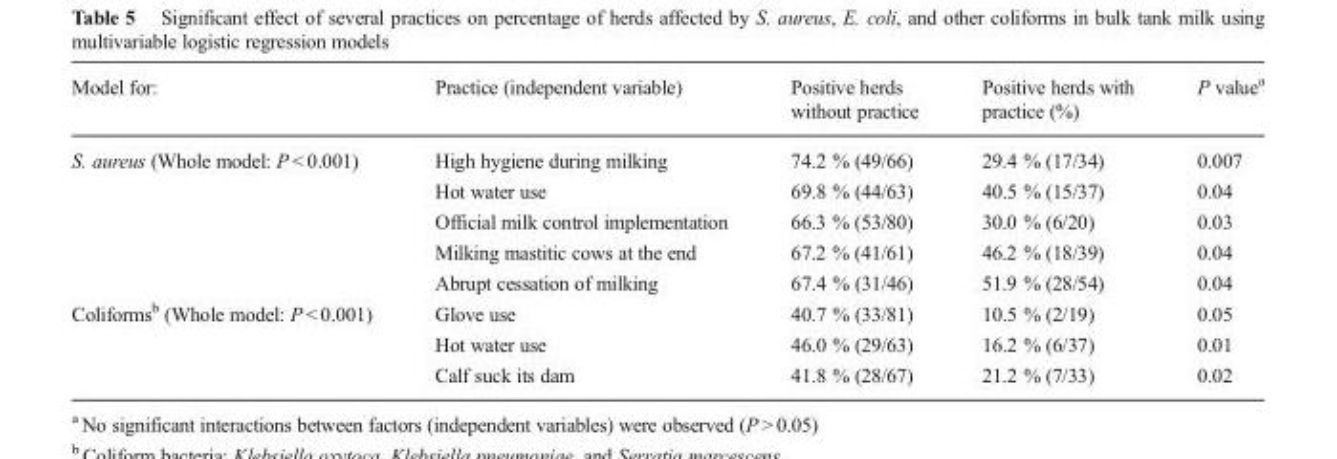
<table><thead><tr><td>Model for:</td><td>Practice (independent variable)</td><td>Positive herds without practice</td><td>Positive herds with practice (%)</td><td>P value<sup>a</sup></td></tr></thead><tbody><tr><td rowspan="5">S. aureus (Whole model: P &lt; 0.001)</td><td>High hygiene during milking</td><td>74.2 % (49/66)</td><td>29.4 % (17/34)</td><td>0.007</td></tr><tr><td>Hot water use</td><td>69.8 % (44/63)</td><td>40.5 % (15/37)</td><td>0.04</td></tr><tr><td>Official milk control implementation</td><td>66.3 % (53/80)</td><td>30.0 % (6/20)</td><td>0.03</td></tr><tr><td>Milking mastitic cows at the end</td><td>67.2 % (41/61)</td><td>46.2 % (18/39)</td><td>0.04</td></tr><tr><td>Abrupt cessation of milking</td><td>67.4 % (31/46)</td><td>51.9 % (28/54)</td><td>0.04</td></tr><tr><td rowspan="3">Coliforms<sup>b</sup> (Whole model: P &lt; 0.001)</td><td>Glove use</td><td>40.7 % (33/81)</td><td>10.5 % (2/19)</td><td>0.05</td></tr><tr><td>Hot water use</td><td>46.0 % (29/63)</td><td>16.2 % (6/37)</td><td>0.01</td></tr><tr><td>Calf suck its dam</td><td>41.8 % (28/67)</td><td>21.2 % (7/33)</td><td>0.02</td></tr></tbody></table>